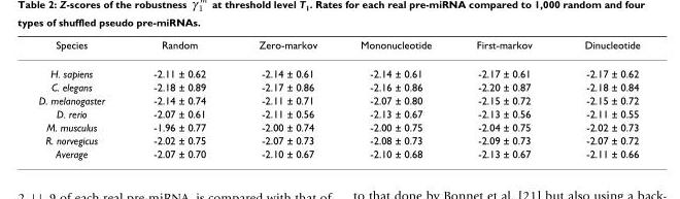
<table><thead><tr><td>Species</td><td>Random</td><td>Zero-markov</td><td>Mononucleotide</td><td>First-markov</td><td>Dinucleotide</td></tr></thead><tbody><tr><td>H. sapiens</td><td>-2.11 ± 0.62</td><td>-2.14 ± 0.61</td><td>-2.14 ± 0.61</td><td>-2.17 ± 0.61</td><td>-2.17 ± 0.62</td></tr><tr><td>C. elegans</td><td>-2.18 ± 0.89</td><td>-2.17 ± 0.86</td><td>-2.16 ± 0.86</td><td>-2.20 ± 0.87</td><td>-2.18 ± 0.84</td></tr><tr><td>D. melanogaster</td><td>-2.14 ± 0.74</td><td>-2.11 ± 0.71</td><td>-2.07 ± 0.80</td><td>-2.15 ± 0.72</td><td>-2.15 ± 0.72</td></tr><tr><td>D. rerio</td><td>-2.07 ± 0.61</td><td>-2.11 ± 0.56</td><td>-2.13 ± 0.67</td><td>-2.13 ± 0.56</td><td>-2.11 ± 0.55</td></tr><tr><td>M. musculus</td><td>-1.96 ± 0.77</td><td>-2.00 ± 0.74</td><td>-2.00 ± 0.75</td><td>-2.04 ± 0.75</td><td>-2.02 ± 0.73</td></tr><tr><td>R. norvegicus</td><td>-2.02 ± 0.75</td><td>-2.07 ± 0.73</td><td>-2.08 ± 0.73</td><td>-2.09 ± 0.73</td><td>-2.07 ± 0.72</td></tr><tr><td>Average</td><td>-2.07 ± 0.70</td><td>-2.10 ± 0.67</td><td>-2.10 ± 0.68</td><td>-2.13 ± 0.67</td><td>-2.11 ± 0.66</td></tr></tbody></table>